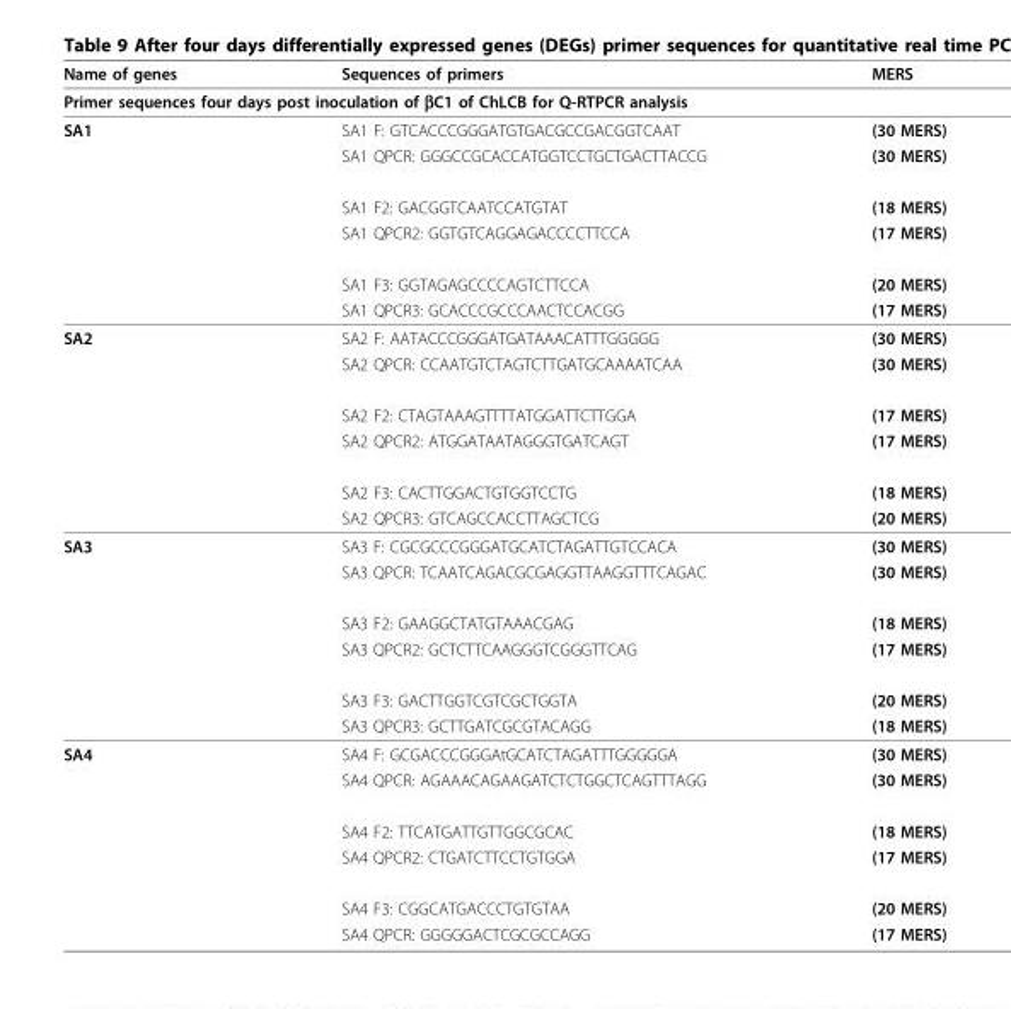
<table><thead><tr><td>Name of genes</td><td>Sequences of primers</td><td>MERS</td></tr></thead><tbody><tr><td colspan="3">Primer sequences four days post inoculation of βC1 of ChLCB for Q-RTPCR analysis</td></tr><tr><td rowspan="6">SA1</td><td>SA1 F: GTCACCCGGGATGTGACGCCGACGGTCAAT</td><td>(30 MERS)</td></tr><tr><td>SA1 QPCR: GGGCCGCACCATGGTCCTGCTGACTTACCG</td><td>(30 MERS)</td></tr><tr><td>SA1 F2: GACGGTCAATCCATGTAT</td><td>(18 MERS)</td></tr><tr><td>SA1 QPCR2: GGTGTCAGGAGACCCCTTCCA</td><td>(17 MERS)</td></tr><tr><td>SA1 F3: GGTAGAGCCCCAGTCTTCCA</td><td>(20 MERS)</td></tr><tr><td>SA1 QPCR3: GCACCCGCCCAACTCCACGG</td><td>(17 MERS)</td></tr><tr><td rowspan="6">SA2</td><td>SA2 F: AATACCCGGGATGATAAACATTTGGGGG</td><td>(30 MERS)</td></tr><tr><td>SA2 QPCR: CCAATGTCTAGTCTTGATGCAAAATCAA</td><td>(30 MERS)</td></tr><tr><td>SA2 F2: CTAGTAAAGTTTTATGGATTCTTGGA</td><td>(17 MERS)</td></tr><tr><td>SA2 QPCR2: ATGGATAATAGGGTGATCAGT</td><td>(17 MERS)</td></tr><tr><td>SA2 F3: CACTTGGACTGTGGTCCTG</td><td>(18 MERS)</td></tr><tr><td>SA2 QPCR3: GTCAGCCACCTTAGCTCG</td><td>(20 MERS)</td></tr><tr><td rowspan="6">SA3</td><td>SA3 F: CGCGCCCGGGATGCATCTAGATTGTCCACA</td><td>(30 MERS)</td></tr><tr><td>SA3 QPCR: TCAATCAGACGCGAGGTTAAGGTTTCAGAC</td><td>(30 MERS)</td></tr><tr><td>SA3 F2: GAAGGCTATGTAAACGAG</td><td>(18 MERS)</td></tr><tr><td>SA3 QPCR2: GCTCTTCAAGGGTCGGGTTCAG</td><td>(17 MERS)</td></tr><tr><td>SA3 F3: GACTTGGTCGTCGCTGGTA</td><td>(20 MERS)</td></tr><tr><td>SA3 QPCR3: GCTTGATCGCGTACAGG</td><td>(18 MERS)</td></tr><tr><td rowspan="6">SA4</td><td>SA4 F: GCGACCCGGGAtGCATCTAGATTTGGGGGA</td><td>(30 MERS)</td></tr><tr><td>SA4 QPCR: AGAAACAGAAGATCTCTGGCTCAGTTTAGG</td><td>(30 MERS)</td></tr><tr><td>SA4 F2: TTCATGATTGTTGGCGCAC</td><td>(18 MERS)</td></tr><tr><td>SA4 QPCR2: CTGATCTTCCTGTGGA</td><td>(17 MERS)</td></tr><tr><td>SA4 F3: CGGCATGACCCTGTGTAA</td><td>(20 MERS)</td></tr><tr><td>SA4 QPCR: GGGGGACTCGCGCCAGG</td><td>(17 MERS)</td></tr></tbody></table>